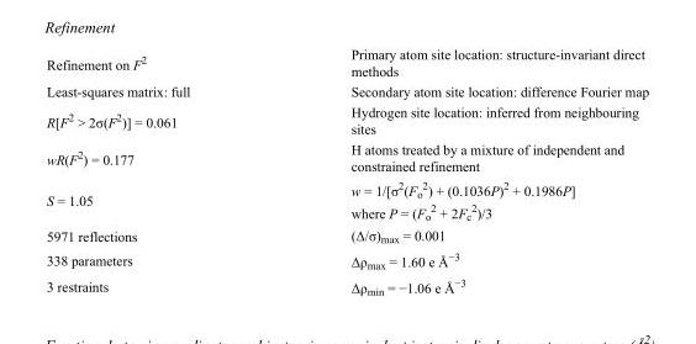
<table><tbody><tr><td>Refinement on F<sup>2</sup></td><td>Primary atom site location: structure-invariant direct methods</td></tr><tr><td>Least-squares matrix: full</td><td>Secondary atom site location: difference Fourier map</td></tr><tr><td>R[F<sup>2</sup> &gt; 2σ(F<sup>2</sup>)] = 0.061</td><td>Hydrogen site location: inferred from neighbouring sites</td></tr><tr><td>wR(F<sup>2</sup>) = 0.177</td><td>H atoms treated by a mixture of independent and constrained refinement</td></tr><tr><td>S = 1.05</td><td>w = 1/[σ<sup>2</sup>(F<sub>o</sub> <sup>2</sup>) + (0.1036P)<sup>2</sup> + 0.1986P] where P = (F<sub>o</sub> <sup>2</sup> + 2F<sub>c</sub> <sup>2</sup>)/3</td></tr><tr><td>5971 reflections</td><td>(Δ/σ)<sub>max</sub> = 0.001</td></tr><tr><td>338 parameters</td><td>Δρ<sub>max</sub> = 1.60 e Å<sup>−3</sup></td></tr><tr><td>3 restraints</td><td>Δρ<sub>min</sub> = −1.06 e Å<sup>−3</sup></td></tr></tbody></table>